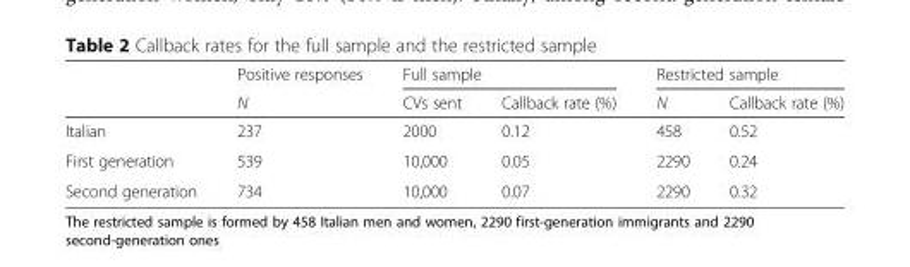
<table><thead><tr><td rowspan="2"></td><td rowspan="2">Positive responses N</td><td colspan="2">Full sample</td><td colspan="2">Restricted sample</td></tr><tr><td>CVs sent</td><td>Callback rate (%)</td><td>N</td><td>Callback rate (%)</td></tr></thead><tbody><tr><td>Italian</td><td>237</td><td>2000</td><td>0.12</td><td>458</td><td>0.52</td></tr><tr><td>First generation</td><td>539</td><td>10,000</td><td>0.05</td><td>2290</td><td>0.24</td></tr><tr><td>Second generation</td><td>734</td><td>10,000</td><td>0.07</td><td>2290</td><td>0.32</td></tr></tbody></table>